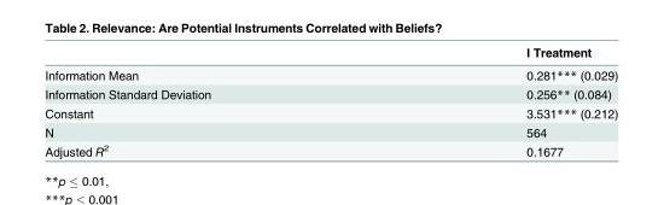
<table><thead><tr><td></td><td>I Treatment</td></tr></thead><tbody><tr><td>Information Mean</td><td>0.281*** (0.029)</td></tr><tr><td>Information Standard Deviation</td><td>0.256** (0.084)</td></tr><tr><td>Constant</td><td>3.531*** (0.212)</td></tr><tr><td>N</td><td>564</td></tr><tr><td>Adjusted R<sup>2</sup></td><td>0.1677</td></tr></tbody></table>